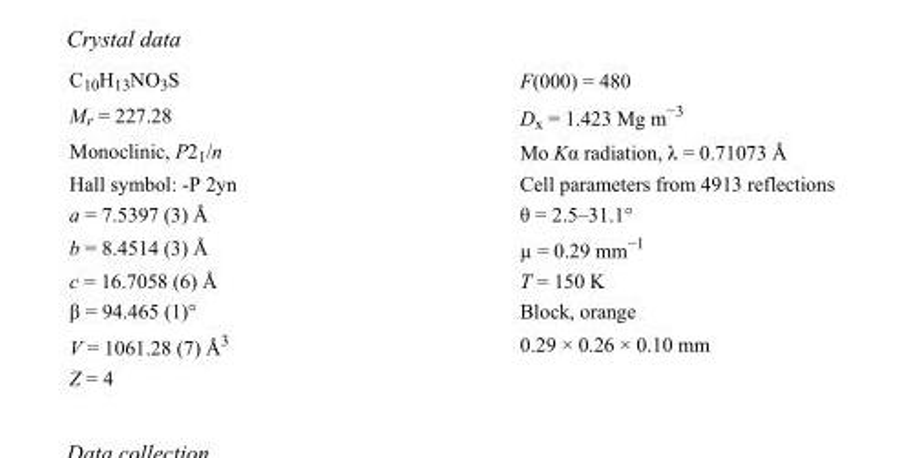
<table><tbody><tr><td>C<sub>10</sub>H<sub>13</sub>NO<sub>3</sub>S</td><td>F(000) = 480</td></tr><tr><td>M<sub>r</sub> = 227.28</td><td>D<sub>x</sub> = 1.423 Mg m<sup>−3</sup></td></tr><tr><td>Monoclinic, P2<sub>1</sub>/n</td><td>Mo Kα radiation, λ = 0.71073 Å</td></tr><tr><td>Hall symbol: -P 2yn</td><td>Cell parameters from 4913 reflections</td></tr><tr><td>a = 7.5397 (3) Å</td><td>θ = 2.5–31.1°</td></tr><tr><td>b = 8.4514 (3) Å</td><td>µ = 0.29 mm<sup>−1</sup></td></tr><tr><td>c = 16.7058 (6) Å</td><td>T = 150 K</td></tr><tr><td>β = 94.465 (1)°</td><td>Block, orange</td></tr><tr><td>V = 1061.28 (7) Å<sup>3</sup></td><td>0.29 × 0.26 × 0.10 mm</td></tr><tr><td>Z = 4</td><td></td></tr></tbody></table>